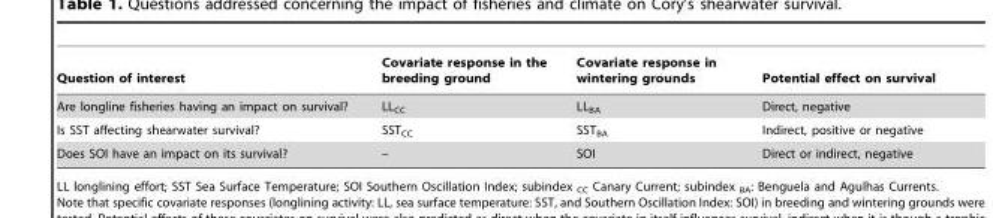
<table><thead><tr><td>Question of interest</td><td>Covariate response in the breeding ground</td><td>Covariate response in wintering grounds</td><td>Potential effect on survival</td></tr></thead><tbody><tr><td>Are longline fisheries having an impact on survival?</td><td>LL<sub>CC</sub></td><td>LL<sub>BA</sub></td><td>Direct, negative</td></tr><tr><td>Is SST affecting shearwater survival?</td><td>SST<sub>CC</sub></td><td>SST<sub>BA</sub></td><td>Indirect, positive or negative</td></tr><tr><td>Does SOI have an impact on its survival?</td><td>–</td><td>SOI</td><td>Direct or indirect, negative</td></tr></tbody></table>